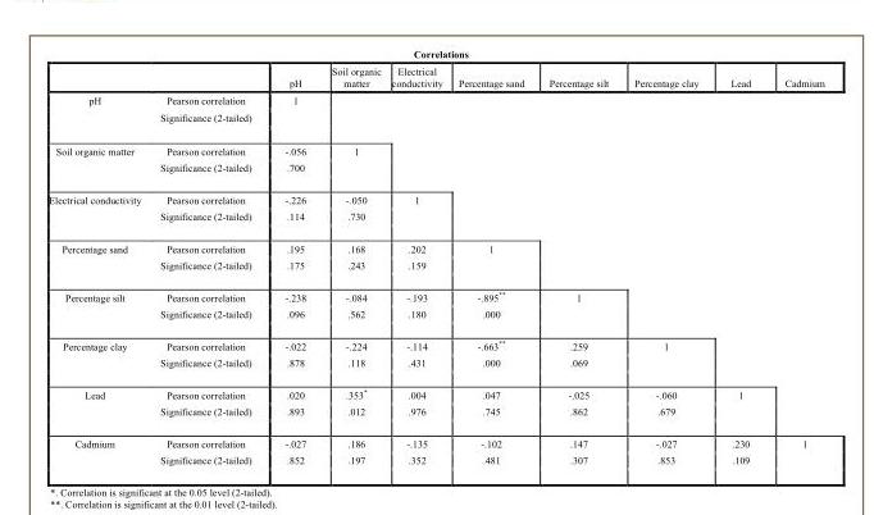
<table><thead><tr><td rowspan="2"></td><td rowspan="2"></td><td colspan="8">Correlations</td></tr><tr><td>pH</td><td>Soil organic matter</td><td>Electrical conductivity</td><td>Percentage sand</td><td>Percentage silt</td><td>Percentage clay</td><td>Lead</td><td>Cadmium</td></tr></thead><tbody><tr><td rowspan="2">pH</td><td>Pearson correlation</td><td>1</td><td></td><td></td><td></td><td></td><td></td><td></td><td></td></tr><tr><td>Significance (2-tailed)</td><td></td><td></td><td></td><td></td><td></td><td></td><td></td><td></td></tr><tr><td rowspan="2">Soil organic matter</td><td>Pearson correlation</td><td>-.056</td><td>1</td><td></td><td></td><td></td><td></td><td></td><td></td></tr><tr><td>Significance (2-tailed)</td><td>.700</td><td></td><td></td><td></td><td></td><td></td><td></td><td></td></tr><tr><td rowspan="2">Electrical conductivity</td><td>Pearson correlation</td><td>-.226</td><td>-.050</td><td>1</td><td></td><td></td><td></td><td></td><td></td></tr><tr><td>Significance (2-tailed)</td><td>.114</td><td>.730</td><td></td><td></td><td></td><td></td><td></td><td></td></tr><tr><td rowspan="2">Percentage sand</td><td>Pearson correlation</td><td>.195</td><td>.168</td><td>.202</td><td>1</td><td></td><td></td><td></td><td></td></tr><tr><td>Significance (2-tailed)</td><td>.175</td><td>.243</td><td>.159</td><td></td><td></td><td></td><td></td><td></td></tr><tr><td rowspan="2">Percentage silt</td><td>Pearson correlation</td><td>-.238</td><td>-.084</td><td>-.193</td><td>-.895**</td><td>1</td><td></td><td></td><td></td></tr><tr><td>Significance (2-tailed)</td><td>.096</td><td>.562</td><td>.180</td><td>.000</td><td></td><td></td><td></td><td></td></tr><tr><td rowspan="2">Percentage clay</td><td>Pearson correlation</td><td>-.022</td><td>-.224</td><td>-.114</td><td>-.663**</td><td>.259</td><td>1</td><td></td><td></td></tr><tr><td>Significance (2-tailed)</td><td>.878</td><td>.118</td><td>.431</td><td>.000</td><td>.069</td><td></td><td></td><td></td></tr><tr><td rowspan="2">Lead</td><td>Pearson correlation</td><td>.020</td><td>.353*</td><td>.004</td><td>.047</td><td>-.025</td><td>-.060</td><td>1</td><td></td></tr><tr><td>Significance (2-tailed)</td><td>.893</td><td>.012</td><td>.976</td><td>.745</td><td>.862</td><td>.679</td><td></td><td></td></tr><tr><td rowspan="2">Cadmium</td><td>Pearson correlation</td><td>-.027</td><td>.186</td><td>-.135</td><td>-.102</td><td>.147</td><td>-.027</td><td>.230</td><td>1</td></tr><tr><td>Significance (2-tailed)</td><td>.852</td><td>.197</td><td>.352</td><td>.481</td><td>.307</td><td>.853</td><td>.109</td><td></td></tr></tbody></table>